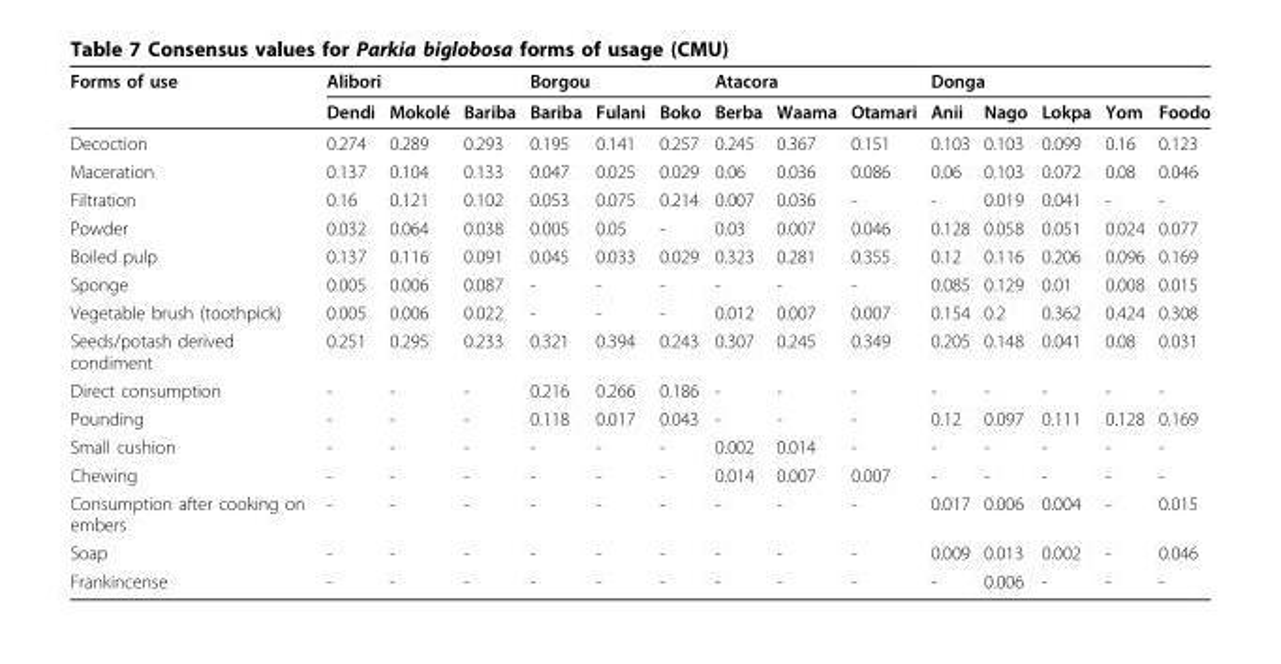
<table><thead><tr><td rowspan="2">Forms of use</td><td colspan="3">Alibori</td><td colspan="3">Borgou</td><td colspan="3">Atacora</td><td colspan="5">Donga</td></tr><tr><td>Dendi</td><td>Mokolé</td><td>Bariba</td><td>Bariba</td><td>Fulani</td><td>Boko</td><td>Berba</td><td>Waama</td><td>Otamari</td><td>Anii</td><td>Nago</td><td>Lokpa</td><td>Yom</td><td>Foodo</td></tr></thead><tbody><tr><td>Decoction</td><td>0.274</td><td>0.289</td><td>0.293</td><td>0.195</td><td>0.141</td><td>0.257</td><td>0.245</td><td>0.367</td><td>0.151</td><td>0.103</td><td>0.103</td><td>0.099</td><td>0.16</td><td>0.123</td></tr><tr><td>Maceration</td><td>0.137</td><td>0.104</td><td>0.133</td><td>0.047</td><td>0.025</td><td>0.029</td><td>0.06</td><td>0.036</td><td>0.086</td><td>0.06</td><td>0.103</td><td>0.072</td><td>0.08</td><td>0.046</td></tr><tr><td>Filtration</td><td>0.16</td><td>0.121</td><td>0.102</td><td>0.053</td><td>0.075</td><td>0.214</td><td>0.007</td><td>0.036</td><td>-</td><td>-</td><td>0.019</td><td>0.041</td><td>-</td><td>-</td></tr><tr><td>Powder</td><td>0.032</td><td>0.064</td><td>0.038</td><td>0.005</td><td>0.05</td><td>-</td><td>0.03</td><td>0.007</td><td>0.046</td><td>0.128</td><td>0.058</td><td>0.051</td><td>0.024</td><td>0.077</td></tr><tr><td>Boiled pulp</td><td>0.137</td><td>0.116</td><td>0.091</td><td>0.045</td><td>0.033</td><td>0.029</td><td>0.323</td><td>0.281</td><td>0.355</td><td>0.12</td><td>0.116</td><td>0.206</td><td>0.096</td><td>0.169</td></tr><tr><td>Sponge</td><td>0.005</td><td>0.006</td><td>0.087</td><td>-</td><td>-</td><td>-</td><td>-</td><td>-</td><td>-</td><td>0.085</td><td>0.129</td><td>0.01</td><td>0.008</td><td>0.015</td></tr><tr><td>Vegetable brush (toothpick)</td><td>0.005</td><td>0.006</td><td>0.022</td><td>-</td><td>-</td><td>-</td><td>0.012</td><td>0.007</td><td>0.007</td><td>0.154</td><td>0.2</td><td>0.362</td><td>0.424</td><td>0.308</td></tr><tr><td>Seeds/potash derived condiment</td><td>0.251</td><td>0.295</td><td>0.233</td><td>0.321</td><td>0.394</td><td>0.243</td><td>0.307</td><td>0.245</td><td>0.349</td><td>0.205</td><td>0.148</td><td>0.041</td><td>0.08</td><td>0.031</td></tr><tr><td>Direct consumption</td><td>-</td><td>-</td><td>-</td><td>0.216</td><td>0.266</td><td>0.186</td><td>-</td><td>-</td><td>-</td><td>-</td><td>-</td><td>-</td><td>-</td><td>-</td></tr><tr><td>Pounding</td><td>-</td><td>-</td><td>-</td><td>0.118</td><td>0.017</td><td>0.043</td><td>-</td><td>-</td><td>-</td><td>0.12</td><td>0.097</td><td>0.111</td><td>0.128</td><td>0.169</td></tr><tr><td>Small cushion</td><td>-</td><td>-</td><td>-</td><td>-</td><td>-</td><td>-</td><td>0.002</td><td>0.014</td><td>-</td><td>-</td><td>-</td><td>-</td><td>-</td><td>-</td></tr><tr><td>Chewing</td><td>-</td><td>-</td><td>-</td><td>-</td><td>-</td><td>-</td><td>0.014</td><td>0.007</td><td>0.007</td><td>-</td><td>-</td><td>-</td><td>-</td><td>-</td></tr><tr><td>Consumption after cooking on embers</td><td>-</td><td>-</td><td>-</td><td>-</td><td>-</td><td>-</td><td>-</td><td>-</td><td>-</td><td>0.017</td><td>0.006</td><td>0.004</td><td>-</td><td>0.015</td></tr><tr><td>Soap</td><td>-</td><td>-</td><td>-</td><td>-</td><td>-</td><td>-</td><td>-</td><td>-</td><td>-</td><td>0.009</td><td>0.013</td><td>0.002</td><td>-</td><td>0.046</td></tr><tr><td>Frankincense</td><td>-</td><td>-</td><td>-</td><td>-</td><td>-</td><td>-</td><td>-</td><td>-</td><td>-</td><td>-</td><td>0.006</td><td>-</td><td>-</td><td>-</td></tr></tbody></table>